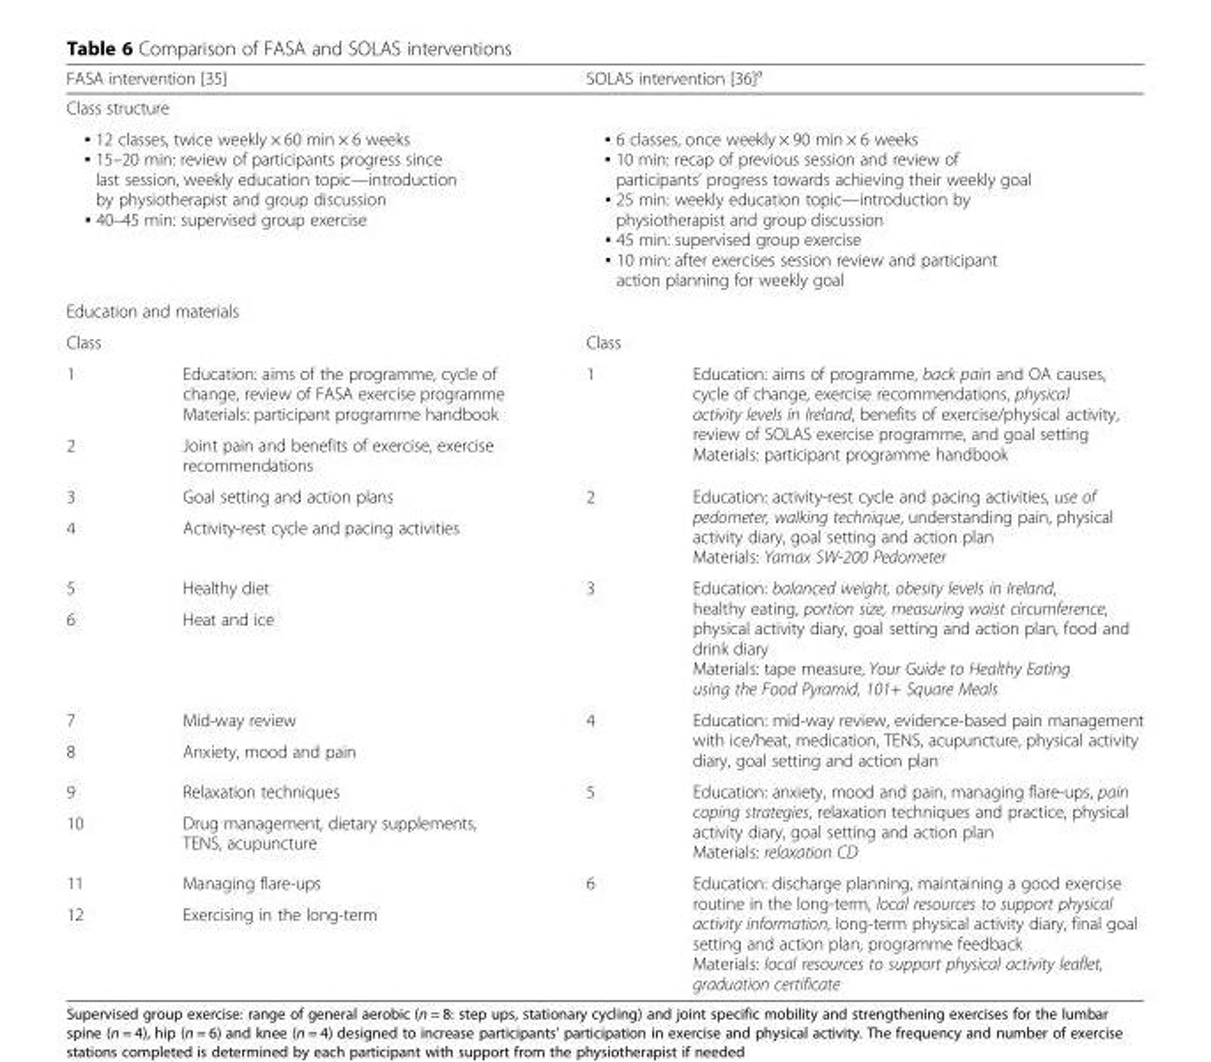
<table><thead><tr><td colspan="2">FASA intervention [35]</td><td colspan="2">SOLAS intervention [36]<sup>a</sup></td></tr></thead><tbody><tr><td colspan="4">Class structure</td></tr><tr><td colspan="2">▪ 12 classes, twice weekly × 60 min × 6 weeks ▪ 15–20 min: review of participants progress since last session, weekly education topic—introduction by physiotherapist and group discussion ▪ 40–45 min: supervised group exercise</td><td colspan="2">▪ 6 classes, once weekly × 90 min × 6 weeks ▪ 10 min: recap of previous session and review of participants’ progress towards achieving their weekly goal ▪ 25 min: weekly education topic—introduction by physiotherapist and group discussion ▪ 45 min: supervised group exercise ▪ 10 min: after exercises session review and participant action planning for weekly goal</td></tr><tr><td colspan="4">Education and materials</td></tr><tr><td>Class</td><td></td><td>Class</td><td></td></tr><tr><td>1</td><td>Education: aims of the programme, cycle of change, review of FASA exercise programme Materials: participant programme handbook</td><td rowspan="2">1</td><td rowspan="2">Education: aims of programme, back pain and OA causes, cycle of change, exercise recommendations, physical activity levels in Ireland, benefits of exercise/physical activity, review of SOLAS exercise programme, and goal setting Materials: participant programme handbook</td></tr><tr><td>2</td><td>Joint pain and benefits of exercise, exercise recommendations</td></tr><tr><td>3</td><td>Goal setting and action plans</td><td rowspan="2">2</td><td rowspan="2">Education: activity-rest cycle and pacing activities, use of pedometer, walking technique, understanding pain, physical activity diary, goal setting and action plan Materials: Yamax SW-200 Pedometer</td></tr><tr><td>4</td><td>Activity-rest cycle and pacing activities</td></tr><tr><td>5</td><td>Healthy diet</td><td rowspan="2">3</td><td rowspan="2">Education: balanced weight, obesity levels in Ireland, healthy eating, portion size, measuring waist circumference, physical activity diary, goal setting and action plan, food and drink diary Materials: tape measure, Your Guide to Healthy Eating using the Food Pyramid, 101+ Square Meals</td></tr><tr><td>6</td><td>Heat and ice</td></tr><tr><td>7</td><td>Mid-way review</td><td rowspan="2">4</td><td rowspan="2">Education: mid-way review, evidence-based pain management with ice/heat, medication, TENS, acupuncture, physical activity diary, goal setting and action plan</td></tr><tr><td>8</td><td>Anxiety, mood and pain</td></tr><tr><td>9</td><td>Relaxation techniques</td><td rowspan="2">5</td><td rowspan="2">Education: anxiety, mood and pain, managing flare-ups, pain coping strategies, relaxation techniques and practice, physical activity diary, goal setting and action plan Materials: relaxation CD</td></tr><tr><td>10</td><td>Drug management, dietary supplements, TENS, acupuncture</td></tr><tr><td>11</td><td>Managing flare-ups</td><td rowspan="2">6</td><td rowspan="2">Education: discharge planning, maintaining a good exercise routine in the long-term, local resources to support physical activity information, long-term physical activity diary, final goal setting and action plan, programme feedback Materials: local resources to support physical activity leaflet, graduation certificate</td></tr><tr><td>12</td><td>Exercising in the long-term</td></tr></tbody></table>